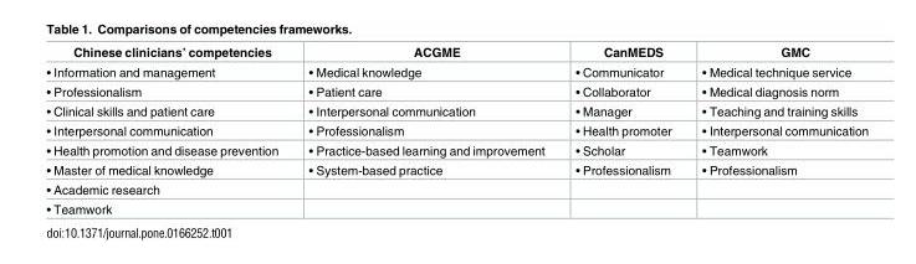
<table><thead><tr><td>Chinese clinicians’ competencies</td><td>ACGME</td><td>CanMEDS</td><td>GMC</td></tr></thead><tbody><tr><td>• Information and management</td><td>• Medical knowledge</td><td>• Communicator</td><td>• Medical technique service</td></tr><tr><td>• Professionalism</td><td>• Patient care</td><td>• Collaborator</td><td>• Medical diagnosis norm</td></tr><tr><td>• Clinical skills and patient care</td><td>• Interpersonal communication</td><td>• Manager</td><td>• Teaching and training skills</td></tr><tr><td>• Interpersonal communication</td><td>• Professionalism</td><td>• Health promoter</td><td>• Interpersonal communication</td></tr><tr><td>• Health promotion and disease prevention</td><td>• Practice-based learning and improvement</td><td>• Scholar</td><td>• Teamwork</td></tr><tr><td>• Master of medical knowledge</td><td>• System-based practice</td><td>• Professionalism</td><td>• Professionalism</td></tr><tr><td colspan="4">• Academic research</td></tr><tr><td>• Teamwork</td><td></td><td></td><td></td></tr></tbody></table>